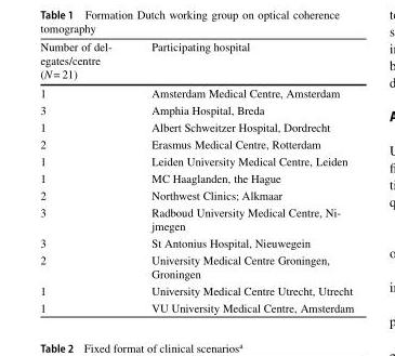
<table><thead><tr><td>Number of del- egates/centre (N= 21)</td><td>Participating hospital</td></tr></thead><tbody><tr><td>1</td><td>Amsterdam Medical Centre, Amsterdam</td></tr><tr><td>3</td><td>Amphia Hospital, Breda</td></tr><tr><td>1</td><td>Albert Schweitzer Hospital, Dordrecht</td></tr><tr><td>2</td><td>Erasmus Medical Centre, Rotterdam</td></tr><tr><td>1</td><td>Leiden University Medical Centre, Leiden</td></tr><tr><td>1</td><td>MC Haaglanden, the Hague</td></tr><tr><td>2</td><td>Northwest Clinics; Alkmaar</td></tr><tr><td>3</td><td>Radboud University Medical Centre, Ni- jmegen</td></tr><tr><td>3</td><td>St Antonius Hospital, Nieuwegein</td></tr><tr><td>2</td><td>University Medical Centre Groningen, Groningen</td></tr><tr><td>1</td><td>University Medical Centre Utrecht, Utrecht</td></tr><tr><td>1</td><td>VU University Medical Centre, Amsterdam</td></tr></tbody></table>